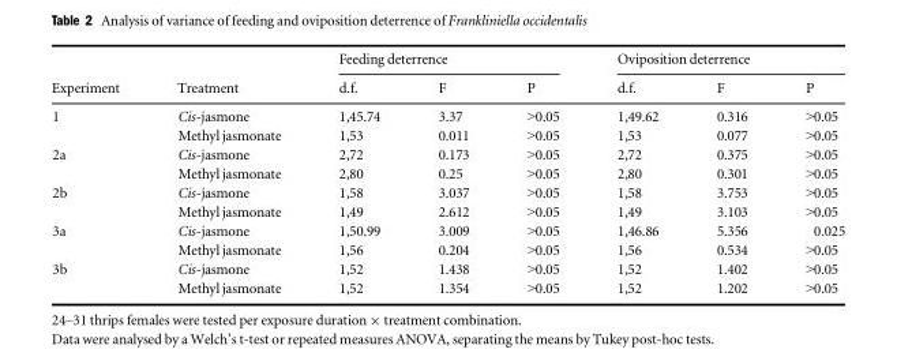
<table><thead><tr><td rowspan="2">Experiment</td><td rowspan="2">Treatment</td><td colspan="3">Feeding deterrence</td><td colspan="3">Oviposition deterrence</td></tr><tr><td>d.f.</td><td>F</td><td>P</td><td>d.f.</td><td>F</td><td>P</td></tr></thead><tbody><tr><td rowspan="2">1</td><td>Cis-jasmone</td><td>1,45.74</td><td>3.37</td><td>&gt;0.05</td><td>1,49.62</td><td>0.316</td><td>&gt;0.05</td></tr><tr><td>Methyl jasmonate</td><td>1,53</td><td>0.011</td><td>&gt;0.05</td><td>1,53</td><td>0.077</td><td>&gt;0.05</td></tr><tr><td rowspan="2">2a</td><td>Cis-jasmone</td><td>2,72</td><td>0.173</td><td>&gt;0.05</td><td>2,72</td><td>0.375</td><td>&gt;0.05</td></tr><tr><td>Methyl jasmonate</td><td>2,80</td><td>0.25</td><td>&gt;0.05</td><td>2,80</td><td>0.301</td><td>&gt;0.05</td></tr><tr><td rowspan="2">2b</td><td>Cis-jasmone</td><td>1,58</td><td>3.037</td><td>&gt;0.05</td><td>1,58</td><td>3.753</td><td>&gt;0.05</td></tr><tr><td>Methyl jasmonate</td><td>1,49</td><td>2.612</td><td>&gt;0.05</td><td>1,49</td><td>3.103</td><td>&gt;0.05</td></tr><tr><td rowspan="2">3a</td><td>Cis-jasmone</td><td>1,50.99</td><td>3.009</td><td>&gt;0.05</td><td>1,46.86</td><td>5.356</td><td>0.025</td></tr><tr><td>Methyl jasmonate</td><td>1,56</td><td>0.204</td><td>&gt;0.05</td><td>1,56</td><td>0.534</td><td>&gt;0.05</td></tr><tr><td rowspan="2">3b</td><td>Cis-jasmone</td><td>1,52</td><td>1.438</td><td>&gt;0.05</td><td>1,52</td><td>1.402</td><td>&gt;0.05</td></tr><tr><td>Methyl jasmonate</td><td>1,52</td><td>1.354</td><td>&gt;0.05</td><td>1,52</td><td>1.202</td><td>&gt;0.05</td></tr></tbody></table>